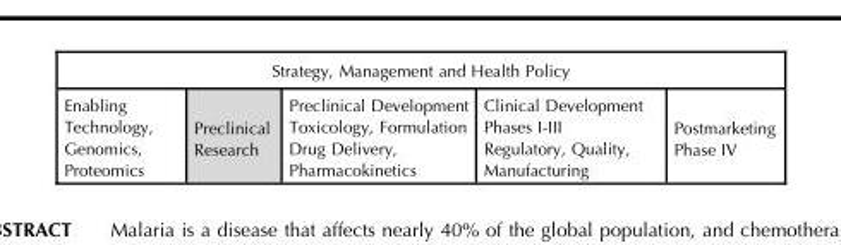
<table><thead><tr><td colspan="5">Strategy, Management and Health Policy</td></tr><tr><td>Enabling Technology, Genomics, Proteomics</td><td>Preclinical Research</td><td>Preclinical Development Toxicology, Formulation Drug Delivery, Pharmacokinetics</td><td>Clinical Development Phases I-III Regulatory, Quality, Manufacturing</td><td>Postmarketing Phase IV</td></tr></thead><tbody></tbody></table>